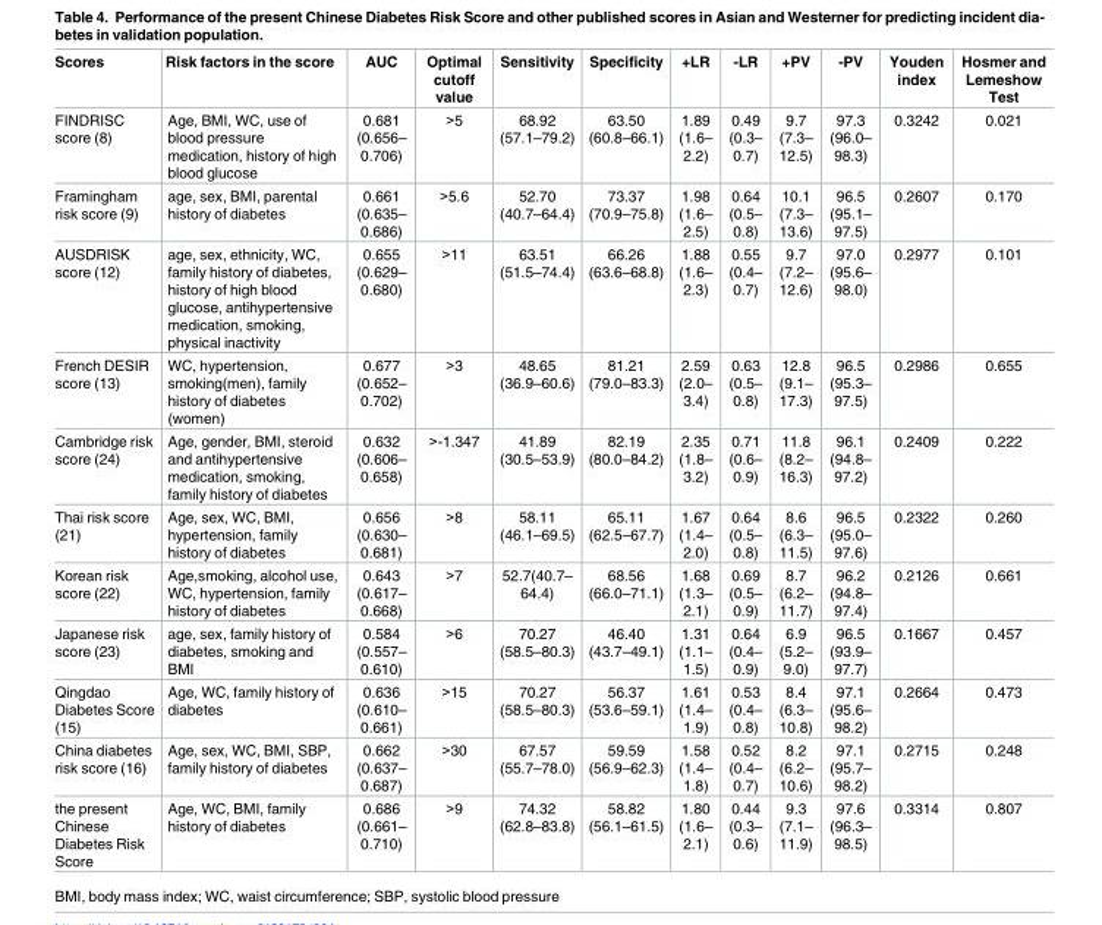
<table><thead><tr><td>Scores</td><td>Risk factors in the score</td><td>AUC</td><td>Optimal cutoff value</td><td>Sensitivity</td><td>Specificity</td><td>+LR</td><td>-LR</td><td>+PV</td><td>-PV</td><td>Youden index</td><td>Hosmer and Lemeshow Test</td></tr></thead><tbody><tr><td>FINDRISC score (8)</td><td>Age, BMI, WC, use of blood pressure medication, history of high blood glucose</td><td>0.681 (0.656– 0.706)</td><td>&gt;5</td><td>68.92 (57.1–79.2)</td><td>63.50 (60.8–66.1)</td><td>1.89 (1.6– 2.2)</td><td>0.49 (0.3– 0.7)</td><td>9.7 (7.3– 12.5)</td><td>97.3 (96.0– 98.3)</td><td>0.3242</td><td>0.021</td></tr><tr><td>Framingham risk score (9)</td><td>age, sex, BMI, parental history of diabetes</td><td>0.661 (0.635– 0.686)</td><td>&gt;5.6</td><td>52.70 (40.7–64.4)</td><td>73.37 (70.9–75.8)</td><td>1.98 (1.6– 2.5)</td><td>0.64 (0.5– 0.8)</td><td>10.1 (7.3– 13.6)</td><td>96.5 (95.1– 97.5)</td><td>0.2607</td><td>0.170</td></tr><tr><td>AUSDRISK score (12)</td><td>age, sex, ethnicity, WC, family history of diabetes, history of high blood glucose, antihypertensive medication, smoking, physical inactivity</td><td>0.655 (0.629– 0.680)</td><td>&gt;11</td><td>63.51 (51.5–74.4)</td><td>66.26 (63.6–68.8)</td><td>1.88 (1.6– 2.3)</td><td>0.55 (0.4– 0.7)</td><td>9.7 (7.2– 12.6)</td><td>97.0 (95.6– 98.0)</td><td>0.2977</td><td>0.101</td></tr><tr><td>French DESIR score (13)</td><td>WC, hypertension, smoking(men), family history of diabetes (women)</td><td>0.677 (0.652– 0.702)</td><td>&gt;3</td><td>48.65 (36.9–60.6)</td><td>81.21 (79.0–83.3)</td><td>2.59 (2.0– 3.4)</td><td>0.63 (0.5– 0.8)</td><td>12.8 (9.1– 17.3)</td><td>96.5 (95.3– 97.5)</td><td>0.2986</td><td>0.655</td></tr><tr><td>Cambridge risk score (24)</td><td>Age, gender, BMI, steroid and antihypertensive medication, smoking, family history of diabetes</td><td>0.632 (0.606– 0.658)</td><td>&gt;-1.347</td><td>41.89 (30.5–53.9)</td><td>82.19 (80.0–84.2)</td><td>2.35 (1.8– 3.2)</td><td>0.71 (0.6– 0.9)</td><td>11.8 (8.2– 16.3)</td><td>96.1 (94.8– 97.2)</td><td>0.2409</td><td>0.222</td></tr><tr><td>Thai risk score (21)</td><td>Age, sex, WC, BMI, hypertension, family history of diabetes</td><td>0.656 (0.630– 0.681)</td><td>&gt;8</td><td>58.11 (46.1–69.5)</td><td>65.11 (62.5–67.7)</td><td>1.67 (1.4– 2.0)</td><td>0.64 (0.5– 0.8)</td><td>8.6 (6.3– 11.5)</td><td>96.5 (95.0– 97.6)</td><td>0.2322</td><td>0.260</td></tr><tr><td>Korean risk score (22)</td><td>Age,smoking, alcohol use, WC, hypertension, family history of diabetes</td><td>0.643 (0.617– 0.668)</td><td>&gt;7</td><td>52.7(40.7– 64.4)</td><td>68.56 (66.0–71.1)</td><td>1.68 (1.3– 2.1)</td><td>0.69 (0.5– 0.9)</td><td>8.7 (6.2– 11.7)</td><td>96.2 (94.8– 97.4)</td><td>0.2126</td><td>0.661</td></tr><tr><td>Japanese risk score (23)</td><td>age, sex, family history of diabetes, smoking and BMI</td><td>0.584 (0.557– 0.610)</td><td>&gt;6</td><td>70.27 (58.5–80.3)</td><td>46.40 (43.7–49.1)</td><td>1.31 (1.1– 1.5)</td><td>0.64 (0.4– 0.9)</td><td>6.9 (5.2– 9.0)</td><td>96.5 (93.9– 97.7)</td><td>0.1667</td><td>0.457</td></tr><tr><td>Qingdao Diabetes Score (15)</td><td>Age, WC, family history of diabetes</td><td>0.636 (0.610– 0.661)</td><td>&gt;15</td><td>70.27 (58.5–80.3)</td><td>56.37 (53.6–59.1)</td><td>1.61 (1.4– 1.9)</td><td>0.53 (0.4– 0.8)</td><td>8.4 (6.3– 10.8)</td><td>97.1 (95.6– 98.2)</td><td>0.2664</td><td>0.473</td></tr><tr><td>China diabetes risk score (16)</td><td>Age, sex, WC, BMI, SBP, family history of diabetes</td><td>0.662 (0.637– 0.687)</td><td>&gt;30</td><td>67.57 (55.7–78.0)</td><td>59.59 (56.9–62.3)</td><td>1.58 (1.4– 1.8)</td><td>0.52 (0.4– 0.7)</td><td>8.2 (6.2– 10.6)</td><td>97.1 (95.7– 98.2)</td><td>0.2715</td><td>0.248</td></tr><tr><td>the present Chinese Diabetes Risk Score</td><td>Age, WC, BMI, family history of diabetes</td><td>0.686 (0.661– 0.710)</td><td>&gt;9</td><td>74.32 (62.8–83.8)</td><td>58.82 (56.1–61.5)</td><td>1.80 (1.6– 2.1)</td><td>0.44 (0.3– 0.6)</td><td>9.3 (7.1– 11.9)</td><td>97.6 (96.3– 98.5)</td><td>0.3314</td><td>0.807</td></tr></tbody></table>